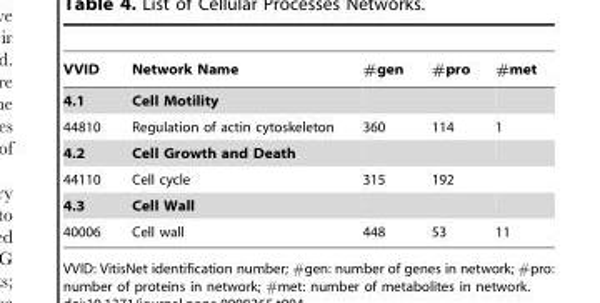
<table><thead><tr><td>VVID</td><td>Network Name</td><td>#gen</td><td>#pro</td><td>#met</td></tr></thead><tbody><tr><td>4.1</td><td>Cell Motility</td><td></td><td></td><td></td></tr><tr><td>44810</td><td>Regulation of actin cytoskeleton</td><td>360</td><td>114</td><td>1</td></tr><tr><td>4.2</td><td>Cell Growth and Death</td><td></td><td></td><td></td></tr><tr><td>44110</td><td>Cell cycle</td><td>315</td><td>192</td><td></td></tr><tr><td>4.3</td><td>Cell Wall</td><td></td><td></td><td></td></tr><tr><td>40006</td><td>Cell wall</td><td>448</td><td>53</td><td>11</td></tr></tbody></table>